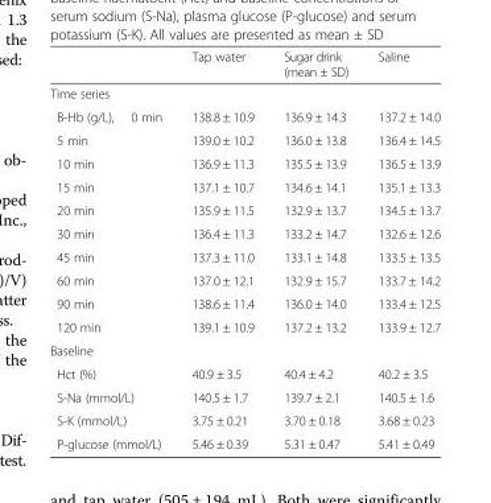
<table><thead><tr><td></td><td>Tap water</td><td>Sugar drink (mean ± SD)</td><td>Saline</td></tr></thead><tbody><tr><td colspan="4">Time series</td></tr><tr><td>B-Hb (g/L), 0 min</td><td>138.8 ± 10.9</td><td>136.9 ± 14.3</td><td>137.2 ± 14.0</td></tr><tr><td>5 min</td><td>139.0 ± 10.2</td><td>136.0 ± 13.8</td><td>136.4 ± 14.5</td></tr><tr><td>10 min</td><td>136.9 ± 11.3</td><td>135.5 ± 13.9</td><td>136.5 ± 13.9</td></tr><tr><td>15 min</td><td>137.1 ± 10.7</td><td>134.6 ± 14.1</td><td>135.1 ± 13.3</td></tr><tr><td>20 min</td><td>135.9 ± 11.5</td><td>132.9 ± 13.7</td><td>134.5 ± 13.7</td></tr><tr><td>30 min</td><td>136.4 ± 11.3</td><td>133.2 ± 14.7</td><td>132.6 ± 12.6</td></tr><tr><td>45 min</td><td>137.3 ± 11.0</td><td>133.1 ± 14.8</td><td>133.5 ± 13.5</td></tr><tr><td>60 min</td><td>137.0 ± 12.1</td><td>132.9 ± 15.7</td><td>133.7 ± 14.2</td></tr><tr><td>90 min</td><td>138.6 ± 11.4</td><td>136.0 ± 14.0</td><td>133.4 ± 12.5</td></tr><tr><td>120 min</td><td>139.1 ± 10.9</td><td>137.2 ± 13.2</td><td>133.9 ± 12.7</td></tr><tr><td colspan="4">Baseline</td></tr><tr><td>Hct (%)</td><td>40.9 ± 3.5</td><td>40.4 ± 4.2</td><td>40.2 ± 3.5</td></tr><tr><td>S-Na (mmol/L)</td><td>140.5 ± 1.7</td><td>139.7 ± 2.1</td><td>140.5 ± 1.6</td></tr><tr><td>S-K (mmol/L)</td><td>3.75 ± 0.21</td><td>3.70 ± 0.18</td><td>3.68 ± 0.23</td></tr><tr><td>P-glucose (mmol/L)</td><td>5.46 ± 0.39</td><td>5.31 ± 0.47</td><td>5.41 ± 0.49</td></tr></tbody></table>